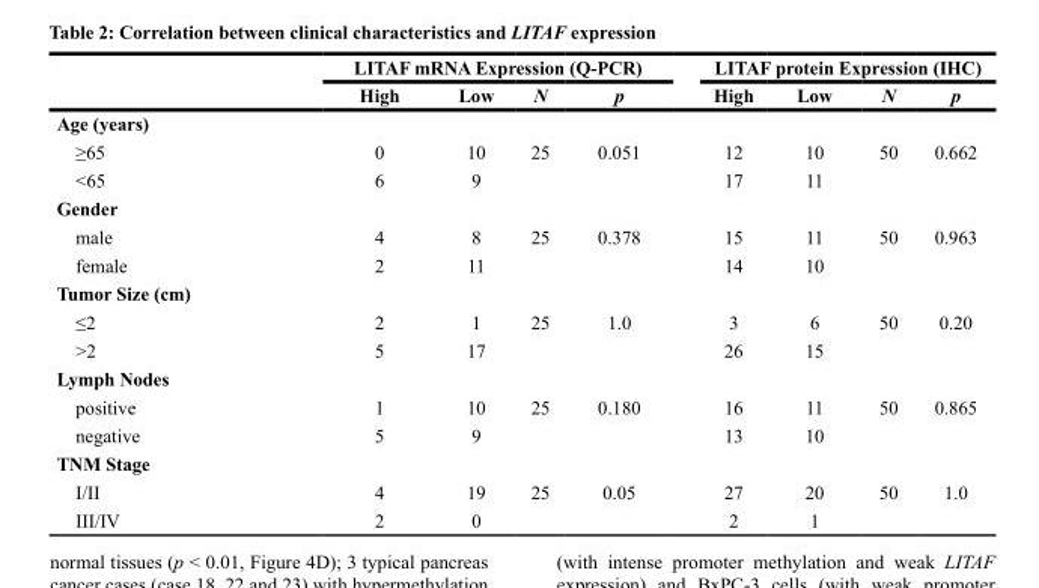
<table><thead><tr><td rowspan="2"></td><td colspan="4">LITAF mRNA Expression (Q-PCR)</td><td colspan="4">LITAF protein Expression (IHC)</td></tr><tr><td>High</td><td>Low</td><td>N</td><td>p</td><td>High</td><td>Low</td><td>N</td><td>p</td></tr></thead><tbody><tr><td colspan="9">Age (years)</td></tr><tr><td>≥65</td><td>0</td><td>10</td><td>25</td><td>0.051</td><td>12</td><td>10</td><td>50</td><td>0.662</td></tr><tr><td>&lt;65</td><td>6</td><td>9</td><td></td><td></td><td>17</td><td>11</td><td></td><td></td></tr><tr><td colspan="9">Gender</td></tr><tr><td>male</td><td>4</td><td>8</td><td>25</td><td>0.378</td><td>15</td><td>11</td><td>50</td><td>0.963</td></tr><tr><td>female</td><td>2</td><td>11</td><td></td><td></td><td>14</td><td>10</td><td></td><td></td></tr><tr><td colspan="9">Tumor Size (cm)</td></tr><tr><td>≤2</td><td>2</td><td>1</td><td>25</td><td>1.0</td><td>3</td><td>6</td><td>50</td><td>0.20</td></tr><tr><td>&gt;2</td><td>5</td><td>17</td><td></td><td></td><td>26</td><td>15</td><td></td><td></td></tr><tr><td colspan="9">Lymph Nodes</td></tr><tr><td>positive</td><td>1</td><td>10</td><td>25</td><td>0.180</td><td>16</td><td>11</td><td>50</td><td>0.865</td></tr><tr><td>negative</td><td>5</td><td>9</td><td></td><td></td><td>13</td><td>10</td><td></td><td></td></tr><tr><td colspan="9">TNM Stage</td></tr><tr><td>I/II</td><td>4</td><td>19</td><td>25</td><td>0.05</td><td>27</td><td>20</td><td>50</td><td>1.0</td></tr><tr><td>III/IV</td><td>2</td><td>0</td><td></td><td></td><td>2</td><td>1</td><td></td><td></td></tr></tbody></table>